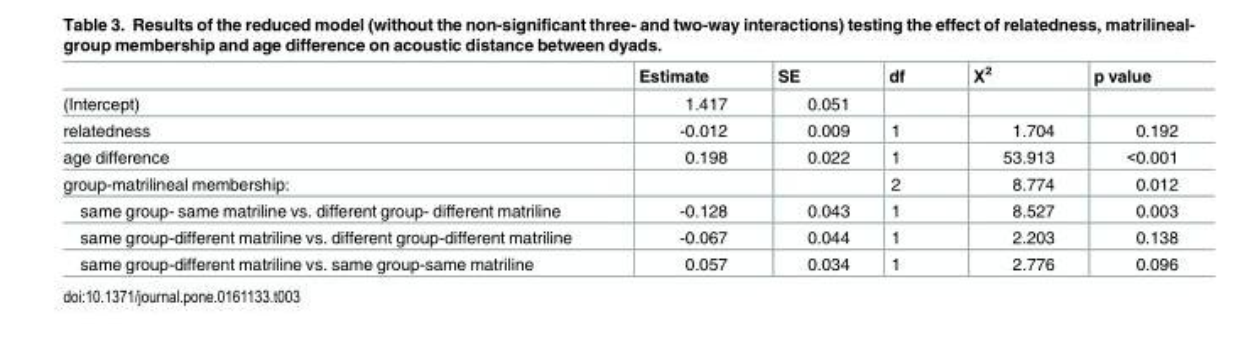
<table><thead><tr><td></td><td>Estimate</td><td>SE</td><td>df</td><td>Χ<sup>2</sup></td><td>p value</td></tr></thead><tbody><tr><td>(Intercept)</td><td>1.417</td><td>0.051</td><td></td><td></td><td></td></tr><tr><td>relatedness</td><td>-0.012</td><td>0.009</td><td>1</td><td>1.704</td><td>0.192</td></tr><tr><td>age difference</td><td>0.198</td><td>0.022</td><td>1</td><td>53.913</td><td>&lt;0.001</td></tr><tr><td>group-matrilineal membership:</td><td></td><td></td><td>2</td><td>8.774</td><td>0.012</td></tr><tr><td>same group- same matriline vs. different group- different matriline</td><td>-0.128</td><td>0.043</td><td>1</td><td>8.527</td><td>0.003</td></tr><tr><td>same group-different matriline vs. different group-different matriline</td><td>-0.067</td><td>0.044</td><td>1</td><td>2.203</td><td>0.138</td></tr><tr><td>same group-different matriline vs. same group-same matriline</td><td>0.057</td><td>0.034</td><td>1</td><td>2.776</td><td>0.096</td></tr></tbody></table>